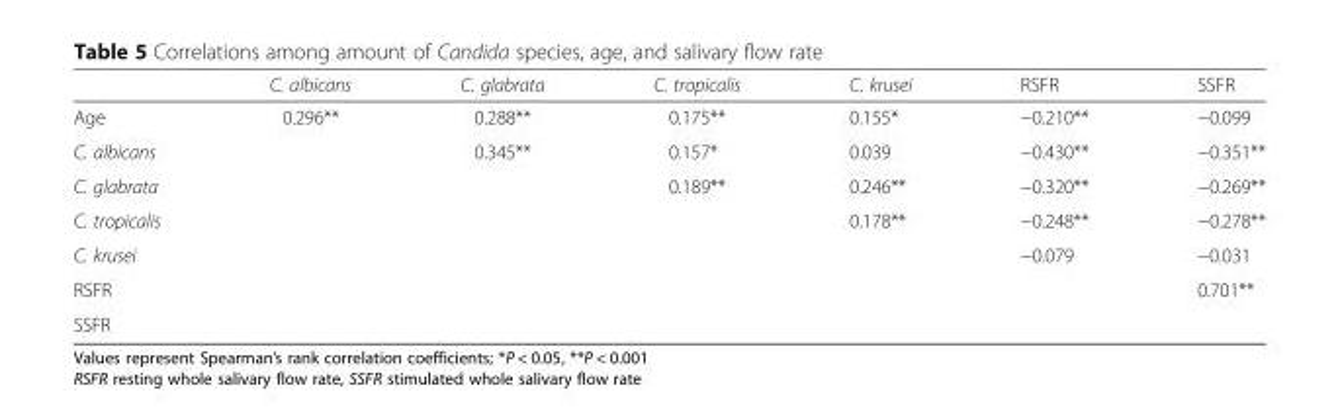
<table><thead><tr><td></td><td>C. albicans</td><td>C. glabrata</td><td>C. tropicalis</td><td>C. krusei</td><td>RSFR</td><td>SSFR</td></tr></thead><tbody><tr><td>Age</td><td>0.296**</td><td>0.288**</td><td>0.175**</td><td>0.155*</td><td>−0.210**</td><td>−0.099</td></tr><tr><td>C. albicans</td><td></td><td>0.345**</td><td>0.157*</td><td>0.039</td><td>−0.430**</td><td>−0.351**</td></tr><tr><td>C. glabrata</td><td></td><td></td><td>0.189**</td><td>0.246**</td><td>−0.320**</td><td>−0.269**</td></tr><tr><td>C. tropicalis</td><td></td><td></td><td></td><td>0.178**</td><td>−0.248**</td><td>−0.278**</td></tr><tr><td>C. krusei</td><td></td><td></td><td></td><td></td><td>−0.079</td><td>−0.031</td></tr><tr><td>RSFR</td><td></td><td></td><td></td><td></td><td></td><td>0.701**</td></tr><tr><td>SSFR</td><td></td><td></td><td></td><td></td><td></td><td></td></tr></tbody></table>